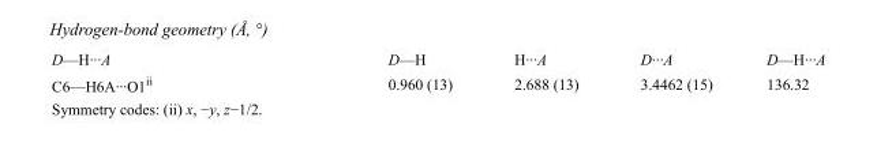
<table><tbody><tr><td>D—H···A</td><td>D—H</td><td>H···A</td><td>D···A</td><td>D—H···A</td></tr><tr><td>C6—H6A···O1<sup>ii</sup></td><td>0.960 (13)</td><td>2.688 (13)</td><td>3.4462 (15)</td><td>136.32</td></tr></tbody></table>